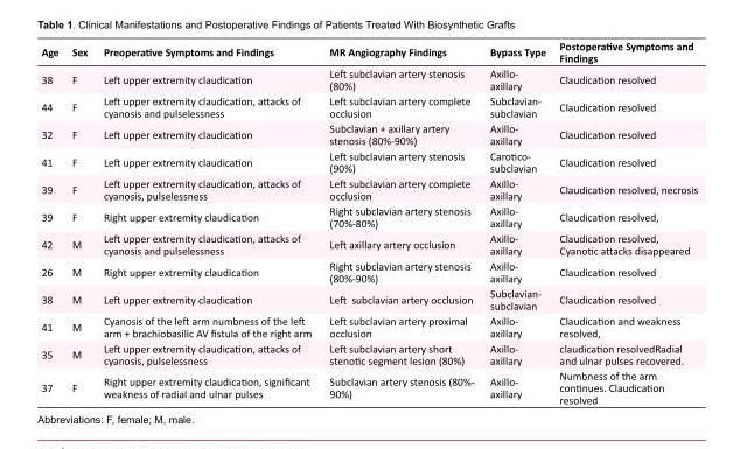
<table><tbody><tr><td>Age</td><td>Sex</td><td>Preoperative Symptoms and Findings</td><td>MR Angiography Findings</td><td>Bypass Type</td><td>Postoperative Symptoms and Findings</td></tr><tr><td>38</td><td>F</td><td>Left upper extremity claudication</td><td>Left subclavian artery stenosis (80%)</td><td>Axillo- axillary</td><td>Claudication resolved</td></tr><tr><td>44</td><td>F</td><td>Left upper extremity claudication, attacks of cyanosis and pulselessness</td><td>Left subclavian artery complete occlusion</td><td>Subclavian- subclavian</td><td>Claudication resolved</td></tr><tr><td>32</td><td>F</td><td>Left upper extremity claudication</td><td>Subclavian + axillary artery stenosis (80%-90%)</td><td>Axillo- axillary</td><td>Claudication resolved</td></tr><tr><td>41</td><td>F</td><td>Left upper extremity claudication</td><td>Left subclavian artery stenosis (90%)</td><td>Carotico- subclavian</td><td>Claudication resolved</td></tr><tr><td>39</td><td>F</td><td>Left upper extremity claudication, attacks of cyanosis, pulselessness</td><td>Left subclavian artery complete occlusion</td><td>Axillo- axillary</td><td>Claudication resolved, necrosis</td></tr><tr><td>39</td><td>F</td><td>Right upper extremity claudication</td><td>Right subclavian artery stenosis (70%-80%)</td><td>Axillo- axillary</td><td>Claudication resolved,</td></tr><tr><td>42</td><td>M</td><td>Left upper extremity claudication, attacks of cyanosis and pulselessness</td><td>Left axillary artery occlusion</td><td>Axillo- axillary</td><td>Claudication resolved, Cyanotic attacks disappeared</td></tr><tr><td>26</td><td>M</td><td>Right upper extremity claudication</td><td>Right subclavian artery stenosis (80%-90%)</td><td>Axillo- axillary</td><td>Claudication resolved</td></tr><tr><td>38</td><td>M</td><td>Left upper extremity claudication</td><td>Left subclavian artery occlusion</td><td>Subclavian- subclavian</td><td>Claudication resolved</td></tr><tr><td>41</td><td>M</td><td>Cyanosis of the left arm numbness of the left arm + brachiobasilic AV fistula of the right arm</td><td>Left subclavian artery proximal occlusion</td><td>Axillo- axillary</td><td>Claudication and weakness resolved,</td></tr><tr><td>35</td><td>M</td><td>Left upper extremity claudication, attacks of cyanosis, pulselessness</td><td>Left subclavian artery short stenotic segment lesion (80%)</td><td>Axillo- axillary</td><td>claudication resolvedRadial and ulnar pulses recovered.</td></tr><tr><td>37</td><td>F</td><td>Right upper extremity claudication, significant weakness of radial and ulnar pulses</td><td>Subclavian artery stenosis (80%- 90%)</td><td>Axillo- axillary</td><td>Numbness of the arm continues. Claudication resolved</td></tr></tbody></table>